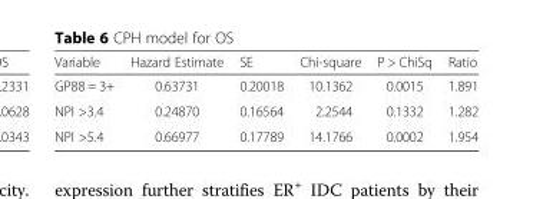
<table><thead><tr><td>Variable</td><td>Hazard Estimate</td><td>SE</td><td>Chi-square</td><td>P &gt; ChiSq</td><td>Ratio</td></tr></thead><tbody><tr><td>GP88 = 3+</td><td>0.63731</td><td>0.20018</td><td>10.1362</td><td>0.0015</td><td>1.891</td></tr><tr><td>NPI &gt;3.4</td><td>0.24870</td><td>0.16564</td><td>2.2544</td><td>0.1332</td><td>1.282</td></tr><tr><td>NPI &gt;5.4</td><td>0.66977</td><td>0.17789</td><td>14.1766</td><td>0.0002</td><td>1.954</td></tr></tbody></table>